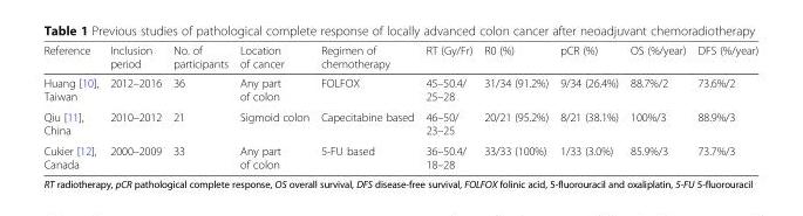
<table><thead><tr><td>Reference</td><td>Inclusion period</td><td>No. of participants</td><td>Location of cancer</td><td>Regimen of chemotherapy</td><td>RT (Gy/Fr)</td><td>R0 (%)</td><td>pCR (%)</td><td>OS (%/year)</td><td>DFS (%/year)</td></tr></thead><tbody><tr><td>Huang [10], Taiwan</td><td>2012–2016</td><td>36</td><td>Any part of colon</td><td>FOLFOX</td><td>45–50.4/ 25–28</td><td>31/34 (91.2%)</td><td>9/34 (26.4%)</td><td>88.7%/2</td><td>73.6%/2</td></tr><tr><td>Qiu [11], China</td><td>2010–2012</td><td>21</td><td>Sigmoid colon</td><td>Capecitabine based</td><td>46–50/ 23–25</td><td>20/21 (95.2%)</td><td>8/21 (38.1%)</td><td>100%/3</td><td>88.9%/3</td></tr><tr><td>Cukier [12], Canada</td><td>2000–2009</td><td>33</td><td>Any part of colon</td><td>5-FU based</td><td>36–50.4/ 18–28</td><td>33/33 (100%)</td><td>1/33 (3.0%)</td><td>85.9%/3</td><td>73.7%/3</td></tr></tbody></table>